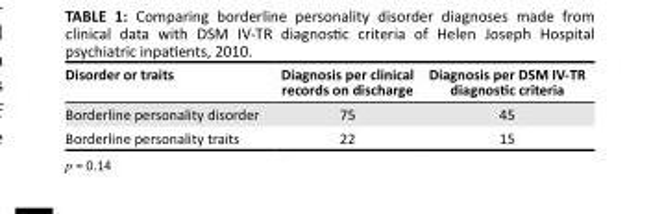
<table><thead><tr><td>Disorder or traits</td><td>Diagnosis per clinical records on discharge</td><td>Diagnosis per DSM IV-TR diagnostic criteria</td></tr></thead><tbody><tr><td>Borderline personality disorder</td><td>75</td><td>45</td></tr><tr><td>Borderline personality traits</td><td>22</td><td>15</td></tr></tbody></table>